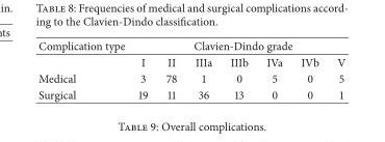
<table><thead><tr><td rowspan="2">Complication type</td><td colspan="7">Clavien-Dindo grade</td></tr><tr><td>I</td><td>II</td><td>IIIa</td><td>IIIb</td><td>IVa</td><td>IVb</td><td>V</td></tr></thead><tbody><tr><td>Medical</td><td>3</td><td>78</td><td>1</td><td>0</td><td>5</td><td>0</td><td>5</td></tr><tr><td>Surgical</td><td>19</td><td>11</td><td>36</td><td>13</td><td>0</td><td>0</td><td>1</td></tr></tbody></table>